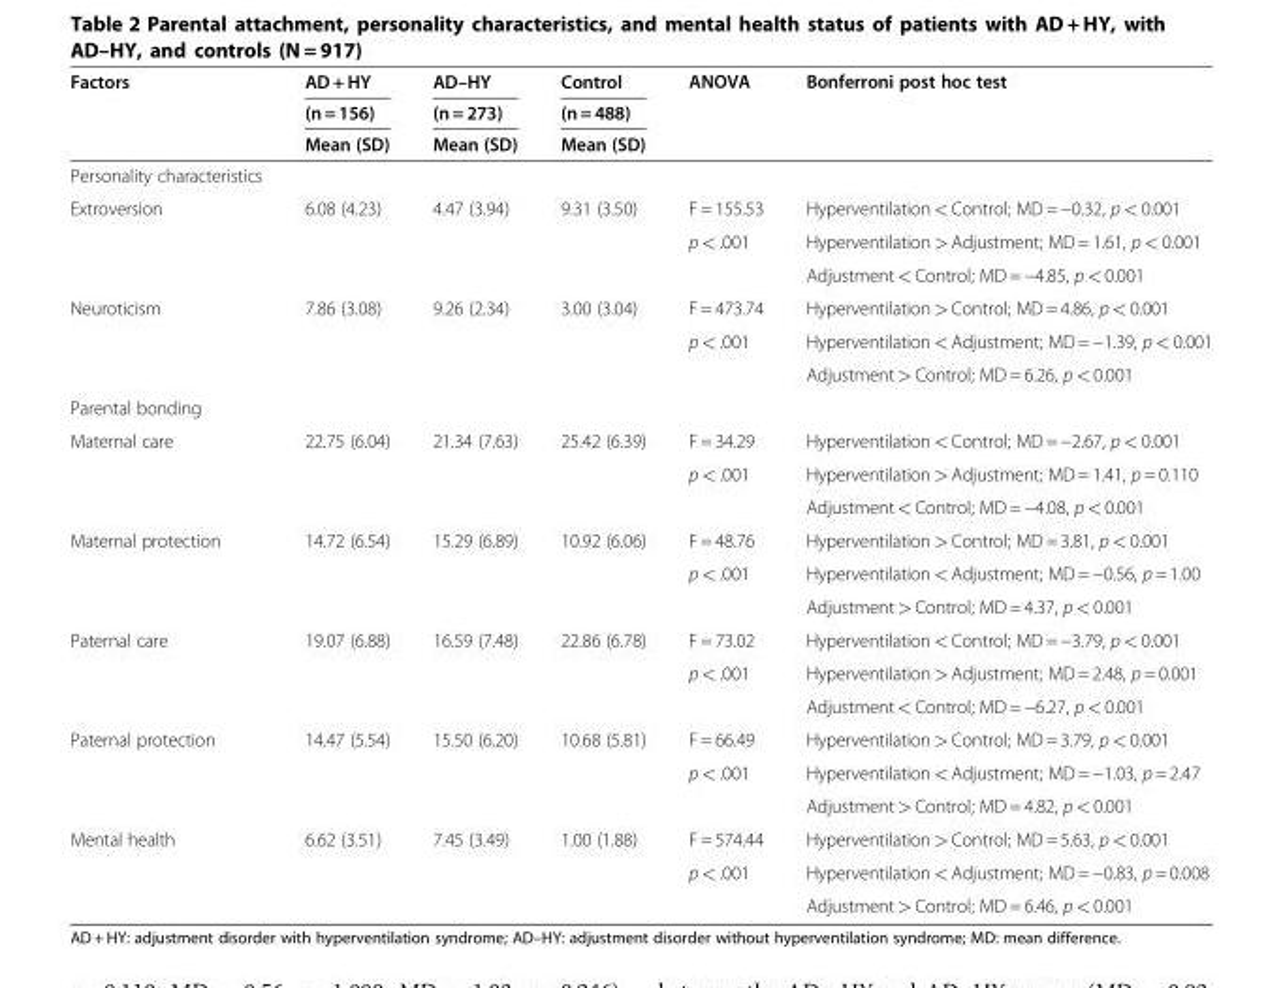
<table><thead><tr><td rowspan="3">Factors</td><td rowspan="3">AD + HY (n = 156) Mean (SD)</td><td rowspan="3">AD–HY (n = 273) Mean (SD)</td><td rowspan="3">Control (n = 488) Mean (SD)</td><td rowspan="3">ANOVA</td><td rowspan="3">Bonferroni post hoc test</td></tr><tr></tr><tr></tr></thead><tbody><tr><td colspan="6">Personality characteristics</td></tr><tr><td rowspan="3">Extroversion</td><td>6.08 (4.23)</td><td>4.47 (3.94)</td><td>9.31 (3.50)</td><td>F = 155.53</td><td>Hyperventilation &lt; Control; MD = −0.32, p &lt; 0.001</td></tr><tr><td></td><td></td><td></td><td>p &lt; .001</td><td>Hyperventilation &gt; Adjustment; MD = 1.61, p &lt; 0.001</td></tr><tr><td></td><td></td><td></td><td></td><td>Adjustment &lt; Control; MD = −4.85, p &lt; 0.001</td></tr><tr><td rowspan="3">Neuroticism</td><td>7.86 (3.08)</td><td>9.26 (2.34)</td><td>3.00 (3.04)</td><td>F = 473.74</td><td>Hyperventilation &gt; Control; MD = 4.86, p &lt; 0.001</td></tr><tr><td></td><td></td><td></td><td>p &lt; .001</td><td>Hyperventilation &lt; Adjustment; MD = −1.39, p &lt; 0.001</td></tr><tr><td></td><td></td><td></td><td></td><td>Adjustment &gt; Control; MD = 6.26, p &lt; 0.001</td></tr><tr><td colspan="6">Parental bonding</td></tr><tr><td rowspan="3">Maternal care</td><td>22.75 (6.04)</td><td>21.34 (7.63)</td><td>25.42 (6.39)</td><td>F = 34.29</td><td>Hyperventilation &lt; Control; MD = −2.67, p &lt; 0.001</td></tr><tr><td></td><td></td><td></td><td>p &lt; .001</td><td>Hyperventilation &gt; Adjustment; MD = 1.41, p = 0.110</td></tr><tr><td></td><td></td><td></td><td></td><td>Adjustment &lt; Control; MD = −4.08, p &lt; 0.001</td></tr><tr><td rowspan="3">Maternal protection</td><td>14.72 (6.54)</td><td>15.29 (6.89)</td><td>10.92 (6.06)</td><td>F = 48.76</td><td>Hyperventilation &gt; Control; MD = 3.81, p &lt; 0.001</td></tr><tr><td></td><td></td><td></td><td>p &lt; .001</td><td>Hyperventilation &lt; Adjustment; MD = −0.56, p = 1.00</td></tr><tr><td></td><td></td><td></td><td></td><td>Adjustment &gt; Control; MD = 4.37, p &lt; 0.001</td></tr><tr><td rowspan="3">Paternal care</td><td>19.07 (6.88)</td><td>16.59 (7.48)</td><td>22.86 (6.78)</td><td>F = 73.02</td><td>Hyperventilation &lt; Control; MD = −3.79, p &lt; 0.001</td></tr><tr><td></td><td></td><td></td><td>p &lt; .001</td><td>Hyperventilation &gt; Adjustment; MD = 2.48, p = 0.001</td></tr><tr><td></td><td></td><td></td><td></td><td>Adjustment &lt; Control; MD = −6.27, p &lt; 0.001</td></tr><tr><td rowspan="3">Paternal protection</td><td>14.47 (5.54)</td><td>15.50 (6.20)</td><td>10.68 (5.81)</td><td>F = 66.49</td><td>Hyperventilation &gt; Control; MD = 3.79, p &lt; 0.001</td></tr><tr><td></td><td></td><td></td><td>p &lt; .001</td><td>Hyperventilation &lt; Adjustment; MD = −1.03, p = 2.47</td></tr><tr><td></td><td></td><td></td><td></td><td>Adjustment &gt; Control; MD = 4.82, p &lt; 0.001</td></tr><tr><td rowspan="3">Mental health</td><td>6.62 (3.51)</td><td>7.45 (3.49)</td><td>1.00 (1.88)</td><td>F = 574.44</td><td>Hyperventilation &gt; Control; MD = 5.63, p &lt; 0.001</td></tr><tr><td></td><td></td><td></td><td>p &lt; .001</td><td>Hyperventilation &lt; Adjustment; MD = −0.83, p = 0.008</td></tr><tr><td></td><td></td><td></td><td></td><td>Adjustment &gt; Control; MD = 6.46, p &lt; 0.001</td></tr></tbody></table>